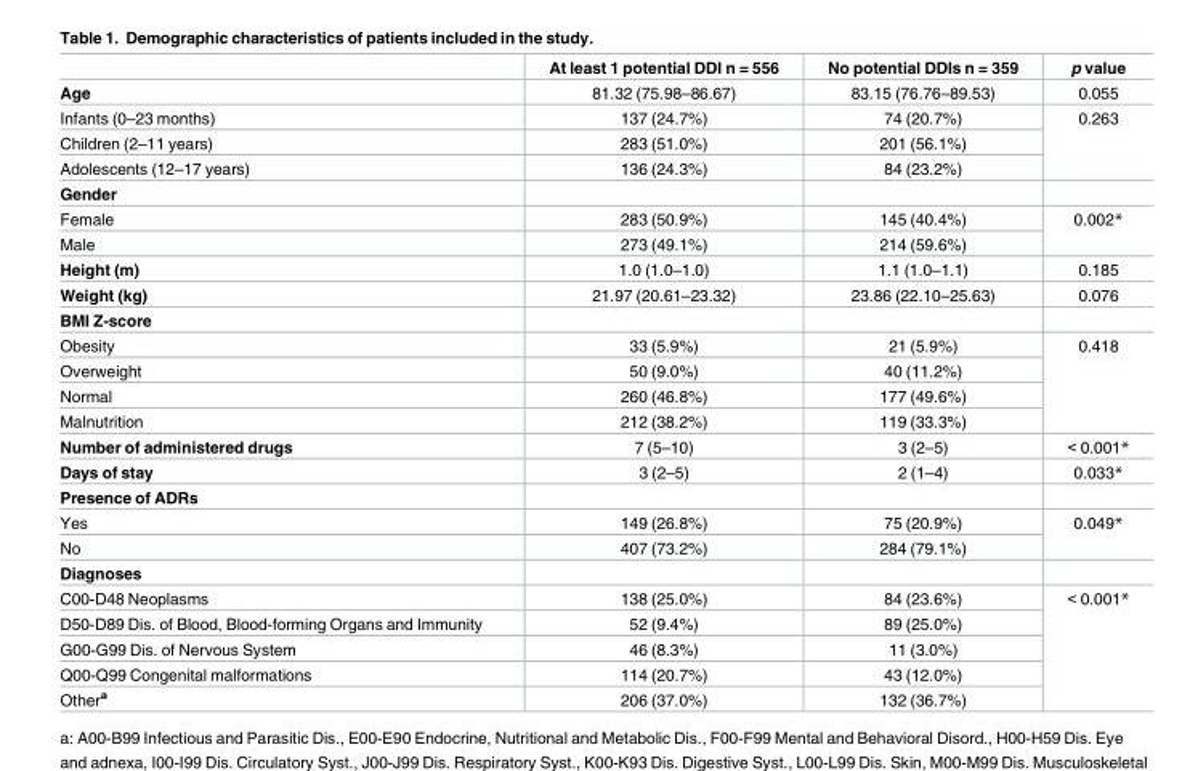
<table><thead><tr><td></td><td>At least 1 potential DDI n = 556</td><td>No potential DDIs n = 359</td><td>p value</td></tr></thead><tbody><tr><td>Age</td><td>81.32 (75.98–86.67)</td><td>83.15 (76.76–89.53)</td><td>0.055</td></tr><tr><td>Infants (0–23 months)</td><td>137 (24.7%)</td><td>74 (20.7%)</td><td rowspan="3">0.263</td></tr><tr><td>Children (2–11 years)</td><td>283 (51.0%)</td><td>201 (56.1%)</td></tr><tr><td>Adolescents (12–17 years)</td><td>136 (24.3%)</td><td>84 (23.2%)</td></tr><tr><td colspan="4">Gender</td></tr><tr><td>Female</td><td>283 (50.9%)</td><td>145 (40.4%)</td><td rowspan="2">0.002*</td></tr><tr><td>Male</td><td>273 (49.1%)</td><td>214 (59.6%)</td></tr><tr><td>Height (m)</td><td>1.0 (1.0–1.0)</td><td>1.1 (1.0–1.1)</td><td>0.185</td></tr><tr><td>Weight (kg)</td><td>21.97 (20.61–23.32)</td><td>23.86 (22.10–25.63)</td><td>0.076</td></tr><tr><td colspan="4">BMI Z-score</td></tr><tr><td>Obesity</td><td>33 (5.9%)</td><td>21 (5.9%)</td><td rowspan="4">0.418</td></tr><tr><td>Overweight</td><td>50 (9.0%)</td><td>40 (11.2%)</td></tr><tr><td>Normal</td><td>260 (46.8%)</td><td>177 (49.6%)</td></tr><tr><td>Malnutrition</td><td>212 (38.2%)</td><td>119 (33.3%)</td></tr><tr><td>Number of administered drugs</td><td>7 (5–10)</td><td>3 (2–5)</td><td>&lt; 0.001*</td></tr><tr><td>Days of stay</td><td>3 (2–5)</td><td>2 (1–4)</td><td>0.033*</td></tr><tr><td colspan="4">Presence of ADRs</td></tr><tr><td>Yes</td><td>149 (26.8%)</td><td>75 (20.9%)</td><td rowspan="2">0.049*</td></tr><tr><td>No</td><td>407 (73.2%)</td><td>284 (79.1%)</td></tr><tr><td colspan="4">Diagnoses</td></tr><tr><td>C00-D48 Neoplasms</td><td>138 (25.0%)</td><td>84 (23.6%)</td><td rowspan="5">&lt; 0.001*</td></tr><tr><td>D50-D89 Dis. of Blood, Blood-forming Organs and Immunity</td><td>52 (9.4%)</td><td>89 (25.0%)</td></tr><tr><td>G00-G99 Dis. of Nervous System</td><td>46 (8.3%)</td><td>11 (3.0%)</td></tr><tr><td>Q00-Q99 Congenital malformations</td><td>114 (20.7%)</td><td>43 (12.0%)</td></tr><tr><td>Other<sup>a</sup></td><td>206 (37.0%)</td><td>132 (36.7%)</td></tr></tbody></table>